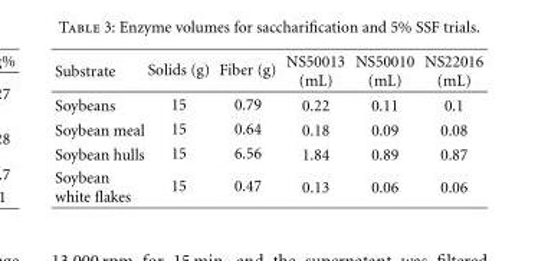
<table><thead><tr><td>Substrate</td><td>Solids (g)</td><td>Fiber (g)</td><td>NS50013 (mL)</td><td>NS50010 (mL)</td><td>NS22016 (mL)</td></tr></thead><tbody><tr><td>Soybeans</td><td>15</td><td>0.79</td><td>0.22</td><td>0.11</td><td>0.1</td></tr><tr><td>Soybean meal</td><td>15</td><td>0.64</td><td>0.18</td><td>0.09</td><td>0.08</td></tr><tr><td>Soybean hulls</td><td>15</td><td>6.56</td><td>1.84</td><td>0.89</td><td>0.87</td></tr><tr><td>Soybean white flakes</td><td>15</td><td>0.47</td><td>0.13</td><td>0.06</td><td>0.06</td></tr></tbody></table>